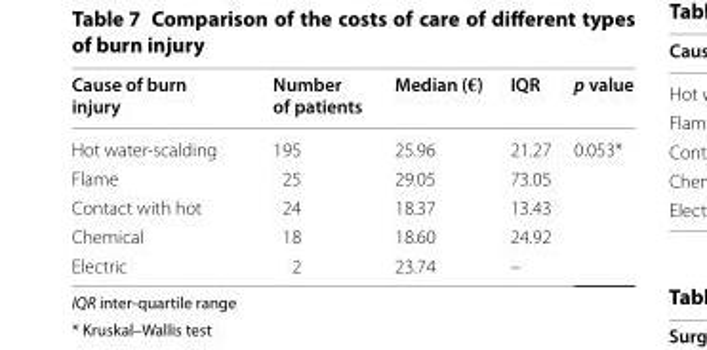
<table><thead><tr><td>Cause of burn injury</td><td>Number of patients</td><td>Median (€)</td><td>IQR</td><td>p value</td></tr></thead><tbody><tr><td>Hot water-scalding</td><td>195</td><td>25.96</td><td>21.27</td><td rowspan="5">0.053*</td></tr><tr><td>Flame</td><td>25</td><td>29.05</td><td>73.05</td></tr><tr><td>Contact with hot</td><td>24</td><td>18.37</td><td>13.43</td></tr><tr><td>Chemical</td><td>18</td><td>18.60</td><td>24.92</td></tr><tr><td>Electric</td><td>2</td><td>23.74</td><td>–</td></tr></tbody></table>